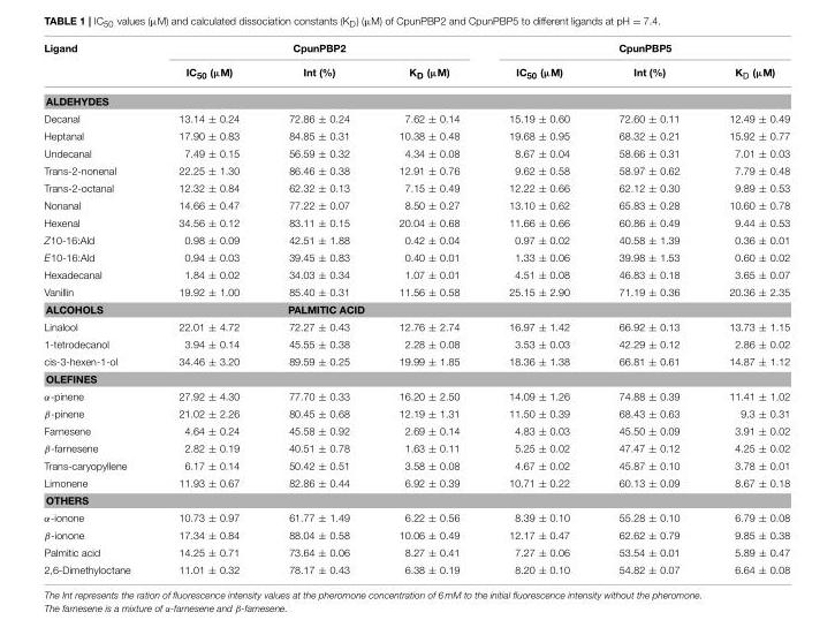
<table><thead><tr><td rowspan="2">Ligand</td><td colspan="3">CpunPBP2</td><td colspan="3">CpunPBP5</td></tr><tr><td>IC<sub>50</sub> (µM)</td><td>Int (%)</td><td>K<sub>D</sub> (µM)</td><td>IC<sub>50</sub> (µM)</td><td>Int (%)</td><td>K<sub>D</sub> (µM)</td></tr></thead><tbody><tr><td colspan="7">ALDEHYDES</td></tr><tr><td>Decanal</td><td>13.14 ± 0.24</td><td>72.86 ± 0.24</td><td>7.62 ± 0.14</td><td>15.19 ± 0.60</td><td>72.60 ± 0.11</td><td>12.49 ± 0.49</td></tr><tr><td>Heptanal</td><td>17.90 ± 0.83</td><td>84.85 ± 0.31</td><td>10.38 ± 0.48</td><td>19.68 ± 0.95</td><td>68.32 ± 0.21</td><td>15.92 ± 0.77</td></tr><tr><td>Undecanal</td><td>7.49 ± 0.15</td><td>56.59 ± 0.32</td><td>4.34 ± 0.08</td><td>8.67 ± 0.04</td><td>58.66 ± 0.31</td><td>7.01 ± 0.03</td></tr><tr><td>Trans-2-nonenal</td><td>22.25 ± 1.30</td><td>86.46 ± 0.38</td><td>12.91 ± 0.76</td><td>9.62 ± 0.58</td><td>58.97 ± 0.62</td><td>7.79 ± 0.48</td></tr><tr><td>Trans-2-octanal</td><td>12.32 ± 0.84</td><td>62.32 ± 0.13</td><td>7.15 ± 0.49</td><td>12.22 ± 0.66</td><td>62.12 ± 0.30</td><td>9.89 ± 0.53</td></tr><tr><td>Nonanal</td><td>14.66 ± 0.47</td><td>77.22 ± 0.07</td><td>8.50 ± 0.27</td><td>13.10 ± 0.62</td><td>65.83 ± 0.28</td><td>10.60 ± 0.78</td></tr><tr><td>Hexenal</td><td>34.56 ± 0.12</td><td>83.11 ± 0.15</td><td>20.04 ± 0.68</td><td>11.66 ± 0.66</td><td>60.86 ± 0.49</td><td>9.44 ± 0.53</td></tr><tr><td>Z10-16:Ald</td><td>0.98 ± 0.09</td><td>42.51 ± 1.88</td><td>0.42 ± 0.04</td><td>0.97 ± 0.02</td><td>40.58 ± 1.39</td><td>0.36 ± 0.01</td></tr><tr><td>E10-16:Ald</td><td>0.94 ± 0.03</td><td>39.45 ± 0.83</td><td>0.40 ± 0.01</td><td>1.33 ± 0.06</td><td>39.98 ± 1.53</td><td>0.60 ± 0.02</td></tr><tr><td>Hexadecanal</td><td>1.84 ± 0.02</td><td>34.03 ± 0.34</td><td>1.07 ± 0.01</td><td>4.51 ± 0.08</td><td>46.83 ± 0.18</td><td>3.65 ± 0.07</td></tr><tr><td>Vanillin</td><td>19.92 ± 1.00</td><td>85.40 ± 0.31</td><td>11.56 ± 0.58</td><td>25.15 ± 2.90</td><td>71.19 ± 0.36</td><td>20.36 ± 2.35</td></tr><tr><td>ALCOHOLS</td><td></td><td>PALMITIC ACID</td><td></td><td></td><td></td><td></td></tr><tr><td>Linalool</td><td>22.01 ± 4.72</td><td>72.27 ± 0.43</td><td>12.76 ± 2.74</td><td>16.97 ± 1.42</td><td>66.92 ± 0.13</td><td>13.73 ± 1.15</td></tr><tr><td>1-tetrodecanol</td><td>3.94 ± 0.14</td><td>45.55 ± 0.38</td><td>2.28 ± 0.08</td><td>3.53 ± 0.03</td><td>42.29 ± 0.12</td><td>2.86 ± 0.02</td></tr><tr><td>cis-3-hexen-1-ol</td><td>34.46 ± 3.20</td><td>89.59 ± 0.25</td><td>19.99 ± 1.85</td><td>18.36 ± 1.38</td><td>66.81 ± 0.61</td><td>14.87 ± 1.12</td></tr><tr><td colspan="7">OLEFINES</td></tr><tr><td>α-pinene</td><td>27.92 ± 4.30</td><td>77.70 ± 0.33</td><td>16.20 ± 2.50</td><td>14.09 ± 1.26</td><td>74.88 ± 0.39</td><td>11.41 ± 1.02</td></tr><tr><td>β-pinene</td><td>21.02 ± 2.26</td><td>80.45 ± 0.68</td><td>12.19 ± 1.31</td><td>11.50 ± 0.39</td><td>68.43 ± 0.63</td><td>9.3 ± 0.31</td></tr><tr><td>Farnesene</td><td>4.64 ± 0.24</td><td>45.58 ± 0.92</td><td>2.69 ± 0.14</td><td>4.83 ± 0.03</td><td>45.50 ± 0.09</td><td>3.91 ± 0.02</td></tr><tr><td>β-farnesene</td><td>2.82 ± 0.19</td><td>40.51 ± 0.78</td><td>1.63 ± 0.11</td><td>5.25 ± 0.02</td><td>47.47 ± 0.12</td><td>4.25 ± 0.02</td></tr><tr><td>Trans-caryopyllene</td><td>6.17 ± 0.14</td><td>50.42 ± 0.51</td><td>3.58 ± 0.08</td><td>4.67 ± 0.02</td><td>45.87 ± 0.10</td><td>3.78 ± 0.01</td></tr><tr><td>Limonene</td><td>11.93 ± 0.67</td><td>82.86 ± 0.44</td><td>6.92 ± 0.39</td><td>10.71 ± 0.22</td><td>60.13 ± 0.09</td><td>8.67 ± 0.18</td></tr><tr><td colspan="7">OTHERS</td></tr><tr><td>α-ionone</td><td>10.73 ± 0.97</td><td>61.77 ± 1.49</td><td>6.22 ± 0.56</td><td>8.39 ± 0.10</td><td>55.28 ± 0.10</td><td>6.79 ± 0.08</td></tr><tr><td>β-ionone</td><td>17.34 ± 0.84</td><td>88.04 ± 0.58</td><td>10.06 ± 0.49</td><td>12.17 ± 0.47</td><td>62.62 ± 0.79</td><td>9.85 ± 0.38</td></tr><tr><td>Palmitic acid</td><td>14.25 ± 0.71</td><td>73.64 ± 0.06</td><td>8.27 ± 0.41</td><td>7.27 ± 0.06</td><td>53.54 ± 0.01</td><td>5.89 ± 0.47</td></tr><tr><td>2,6-Dimethyloctane</td><td>11.01 ± 0.32</td><td>78.17 ± 0.43</td><td>6.38 ± 0.19</td><td>8.20 ± 0.10</td><td>54.82 ± 0.07</td><td>6.64 ± 0.08</td></tr></tbody></table>